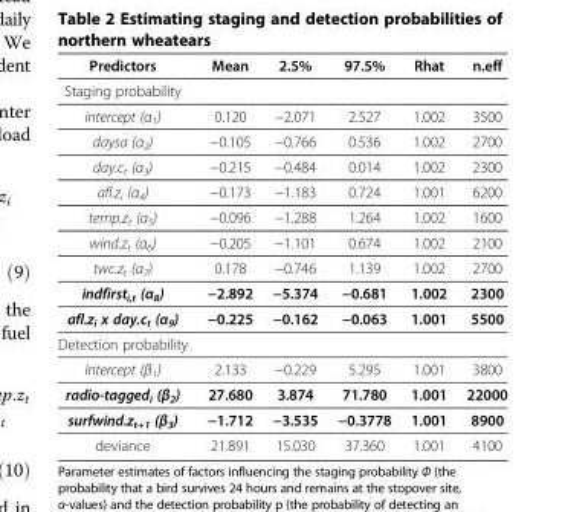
<table><thead><tr><td>Predictors</td><td>Mean</td><td>2.5%</td><td>97.5%</td><td>Rhat</td><td>n.eff</td></tr></thead><tbody><tr><td colspan="6">Staging probability</td></tr><tr><td>intercept (α<sub>1</sub>)</td><td>0.120</td><td>−2.071</td><td>2.527</td><td>1.002</td><td>3500</td></tr><tr><td>daysa (α<sub>2</sub>)</td><td>−0.105</td><td>−0.766</td><td>0.536</td><td>1.002</td><td>2700</td></tr><tr><td>day.c<sub>t</sub> (α<sub>3</sub>)</td><td>−0.215</td><td>−0.484</td><td>0.014</td><td>1.002</td><td>2300</td></tr><tr><td>afl.z<sub>i</sub> (α<sub>4</sub>)</td><td>−0.173</td><td>−1.183</td><td>0.724</td><td>1.001</td><td>6200</td></tr><tr><td>temp.z<sub>t</sub> (α<sub>5</sub>)</td><td>−0.096</td><td>−1.288</td><td>1.264</td><td>1.002</td><td>1600</td></tr><tr><td>wind.z<sub>t</sub> (α<sub>6</sub>)</td><td>−0.205</td><td>−1.101</td><td>0.674</td><td>1.002</td><td>2100</td></tr><tr><td>twc.z<sub>t</sub> (α<sub>7</sub>)</td><td>0.178</td><td>−0.746</td><td>1.139</td><td>1.002</td><td>2700</td></tr><tr><td>indfirst<sub>i,t</sub> (α<sub>8</sub>)</td><td>−2.892</td><td>−5.374</td><td>−0.681</td><td>1.002</td><td>2300</td></tr><tr><td>afl.z<sub>i</sub> x day.c<sub>t</sub> (α<sub>9</sub>)</td><td>−0.225</td><td>−0.162</td><td>−0.063</td><td>1.001</td><td>5500</td></tr><tr><td colspan="6">Detection probability</td></tr><tr><td>Intercept (β<sub>1</sub>)</td><td>2.133</td><td>−0.229</td><td>5.295</td><td>1.001</td><td>3800</td></tr><tr><td>radio-tagged<sub>i</sub> (β<sub>2</sub>)</td><td>27.680</td><td>3.874</td><td>71.780</td><td>1.001</td><td>22000</td></tr><tr><td>surfwind.z<sub>t+1</sub> (β<sub>3</sub>)</td><td>−1.712</td><td>−3.535</td><td>−0.3778</td><td>1.001</td><td>8900</td></tr><tr><td>deviance</td><td>21.891</td><td>15.030</td><td>37.360</td><td>1.001</td><td>4100</td></tr></tbody></table>